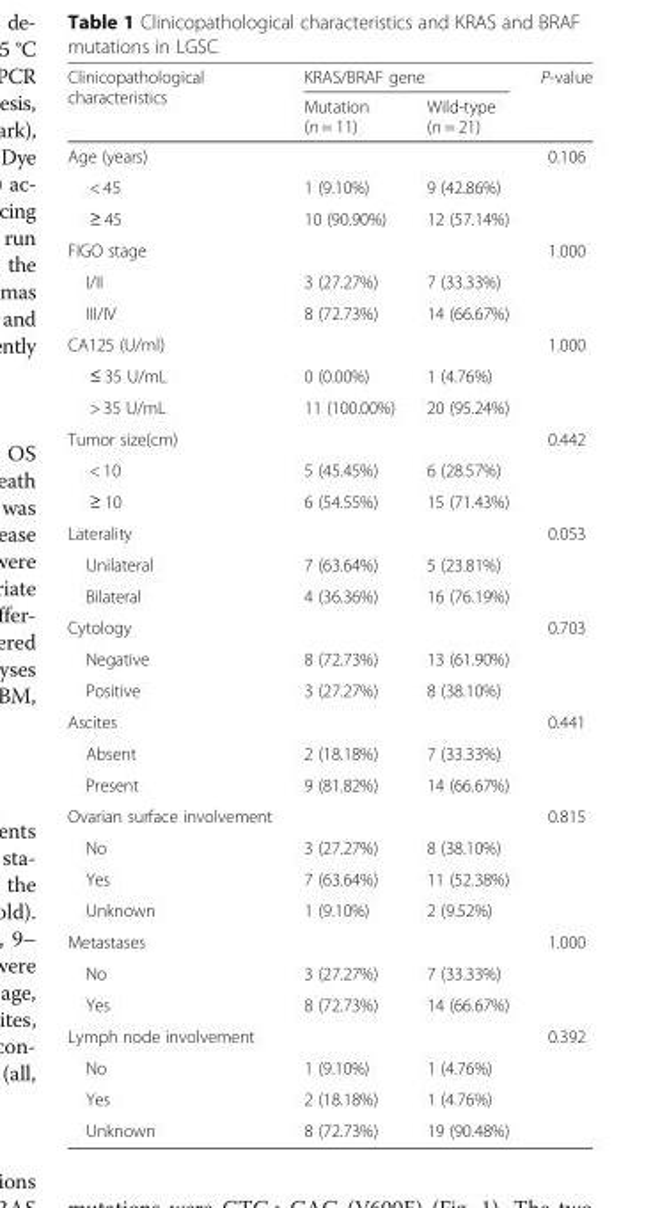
<table><thead><tr><td rowspan="2">Clinicopathological characteristics</td><td colspan="2">KRAS/BRAF gene</td><td rowspan="2">P-value</td></tr><tr><td>Mutation (n = 11)</td><td>Wild-type (n = 21)</td></tr></thead><tbody><tr><td>Age (years)</td><td></td><td></td><td>0.106</td></tr><tr><td>&lt; 45</td><td>1 (9.10%)</td><td>9 (42.86%)</td><td></td></tr><tr><td>≥ 45</td><td>10 (90.90%)</td><td>12 (57.14%)</td><td></td></tr><tr><td>FIGO stage</td><td></td><td></td><td>1.000</td></tr><tr><td>I/II</td><td>3 (27.27%)</td><td>7 (33.33%)</td><td></td></tr><tr><td>III/IV</td><td>8 (72.73%)</td><td>14 (66.67%)</td><td></td></tr><tr><td>CA125 (U/ml)</td><td></td><td></td><td>1.000</td></tr><tr><td>≤ 35 U/mL</td><td>0 (0.00%)</td><td>1 (4.76%)</td><td></td></tr><tr><td>&gt; 35 U/mL</td><td>11 (100.00%)</td><td>20 (95.24%)</td><td></td></tr><tr><td>Tumor size(cm)</td><td></td><td></td><td>0.442</td></tr><tr><td>&lt; 10</td><td>5 (45.45%)</td><td>6 (28.57%)</td><td></td></tr><tr><td>≥ 10</td><td>6 (54.55%)</td><td>15 (71.43%)</td><td></td></tr><tr><td>Laterality</td><td></td><td></td><td>0.053</td></tr><tr><td>Unilateral</td><td>7 (63.64%)</td><td>5 (23.81%)</td><td></td></tr><tr><td>Bilateral</td><td>4 (36.36%)</td><td>16 (76.19%)</td><td></td></tr><tr><td>Cytology</td><td></td><td></td><td>0.703</td></tr><tr><td>Negative</td><td>8 (72.73%)</td><td>13 (61.90%)</td><td></td></tr><tr><td>Positive</td><td>3 (27.27%)</td><td>8 (38.10%)</td><td></td></tr><tr><td>Ascites</td><td></td><td></td><td>0.441</td></tr><tr><td>Absent</td><td>2 (18.18%)</td><td>7 (33.33%)</td><td></td></tr><tr><td>Present</td><td>9 (81.82%)</td><td>14 (66.67%)</td><td></td></tr><tr><td>Ovarian surface involvement</td><td></td><td></td><td>0.815</td></tr><tr><td>No</td><td>3 (27.27%)</td><td>8 (38.10%)</td><td></td></tr><tr><td>Yes</td><td>7 (63.64%)</td><td>11 (52.38%)</td><td></td></tr><tr><td>Unknown</td><td>1 (9.10%)</td><td>2 (9.52%)</td><td></td></tr><tr><td>Metastases</td><td></td><td></td><td>1.000</td></tr><tr><td>No</td><td>3 (27.27%)</td><td>7 (33.33%)</td><td></td></tr><tr><td>Yes</td><td>8 (72.73%)</td><td>14 (66.67%)</td><td></td></tr><tr><td>Lymph node involvement</td><td></td><td></td><td>0.392</td></tr><tr><td>No</td><td>1 (9.10%)</td><td>1 (4.76%)</td><td></td></tr><tr><td>Yes</td><td>2 (18.18%)</td><td>1 (4.76%)</td><td></td></tr><tr><td>Unknown</td><td>8 (72.73%)</td><td>19 (90.48%)</td><td></td></tr></tbody></table>